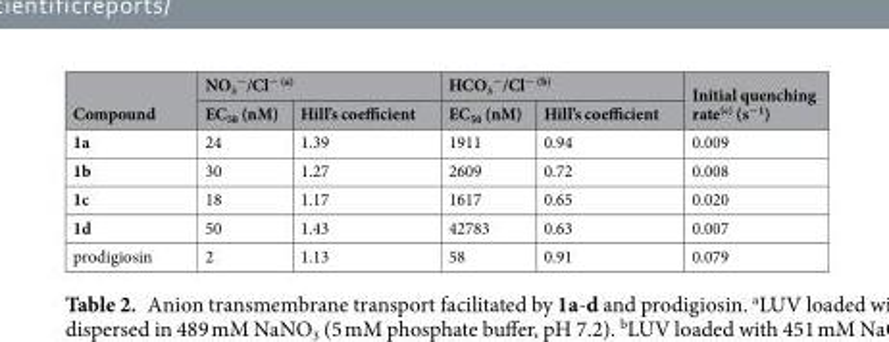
<table><thead><tr><td rowspan="2">Compound</td><td colspan="2">NO<sub>3</sub> <sup>−</sup>/Cl<sup>− (a)</sup></td><td colspan="2">HCO<sub>3</sub> <sup>−</sup>/Cl<sup>− (b)</sup></td><td rowspan="2">Initial quenching rate<sup>(c)</sup> (s<sup>−1</sup>)</td></tr><tr><td>EC<sub>50</sub> (nM)</td><td>Hill’s coefficient</td><td>EC<sub>50</sub> (nM)</td><td>Hill’s coefficient</td></tr></thead><tbody><tr><td>1a</td><td>24</td><td>1.39</td><td>1911</td><td>0.94</td><td>0.009</td></tr><tr><td>1b</td><td>30</td><td>1.27</td><td>2609</td><td>0.72</td><td>0.008</td></tr><tr><td>1c</td><td>18</td><td>1.17</td><td>1617</td><td>0.65</td><td>0.020</td></tr><tr><td>1d</td><td>50</td><td>1.43</td><td>42783</td><td>0.63</td><td>0.007</td></tr><tr><td>prodigiosin</td><td>2</td><td>1.13</td><td>58</td><td>0.91</td><td>0.079</td></tr></tbody></table>